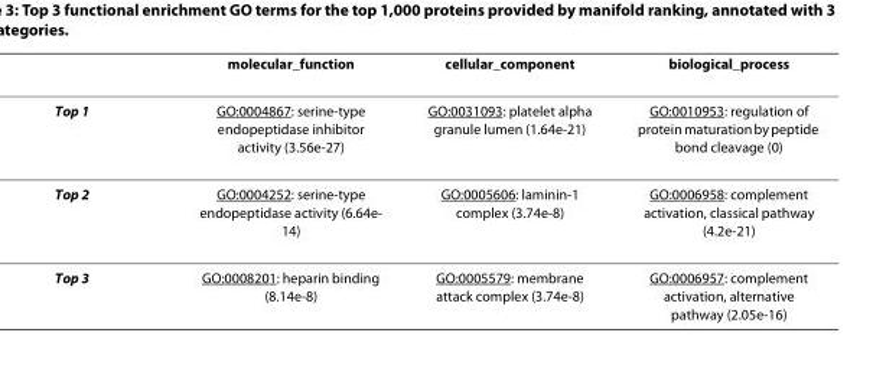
<table><thead><tr><td></td><td>molecular_function</td><td>cellular_component</td><td>biological_process</td></tr></thead><tbody><tr><td>Top 1</td><td>GO:0004867: serine-type endopeptidase inhibitor activity (3.56e-27)</td><td>GO:0031093: platelet alpha granule lumen (1.64e-21)</td><td>GO:0010953: regulation of protein maturation by peptide bond cleavage (0)</td></tr><tr><td>Top 2</td><td>GO:0004252: serine-type endopeptidase activity (6.64e- 14)</td><td>GO:0005606: laminin-1 complex (3.74e-8)</td><td>GO:0006958: complement activation, classical pathway (4.2e-21)</td></tr><tr><td>Top 3</td><td>GO:0008201: heparin binding (8.14e-8)</td><td>GO:0005579: membrane attack complex (3.74e-8)</td><td>GO:0006957: complement activation, alternative pathway (2.05e-16)</td></tr></tbody></table>